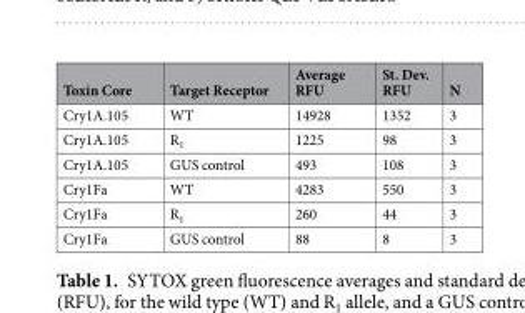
<table><thead><tr><td>Toxin Core</td><td>Target Receptor</td><td>Average RFU</td><td>St. Dev. RFU</td><td>N</td></tr></thead><tbody><tr><td>Cry1A.105</td><td>WT</td><td>14928</td><td>1352</td><td>3</td></tr><tr><td>Cry1A.105</td><td>R<sub>1</sub></td><td>1225</td><td>98</td><td>3</td></tr><tr><td>Cry1A.105</td><td>GUS control</td><td>493</td><td>108</td><td>3</td></tr><tr><td>Cry1Fa</td><td>WT</td><td>4283</td><td>550</td><td>3</td></tr><tr><td>Cry1Fa</td><td>R<sub>1</sub></td><td>260</td><td>44</td><td>3</td></tr><tr><td>Cry1Fa</td><td>GUS control</td><td>88</td><td>8</td><td>3</td></tr></tbody></table>